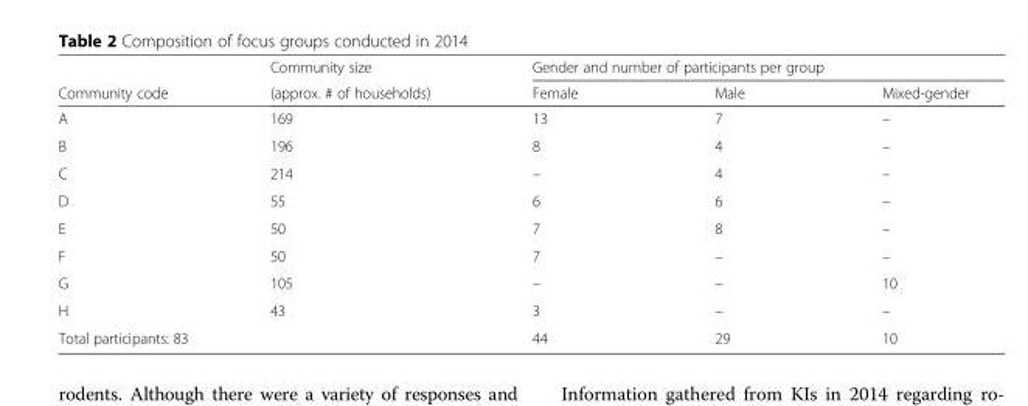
<table><thead><tr><td rowspan="2">Community code</td><td rowspan="2">Community size (approx. # of households)</td><td colspan="3">Gender and number of participants per group</td></tr><tr><td>Female</td><td>Male</td><td>Mixed-gender</td></tr></thead><tbody><tr><td>A</td><td>169</td><td>13</td><td>7</td><td>–</td></tr><tr><td>B</td><td>196</td><td>8</td><td>4</td><td>–</td></tr><tr><td>C</td><td>214</td><td>–</td><td>4</td><td>–</td></tr><tr><td>D</td><td>55</td><td>6</td><td>6</td><td>–</td></tr><tr><td>E</td><td>50</td><td>7</td><td>8</td><td>–</td></tr><tr><td>F</td><td>50</td><td>7</td><td>–</td><td>–</td></tr><tr><td>G</td><td>105</td><td>–</td><td>–</td><td>10</td></tr><tr><td>H</td><td>43</td><td>3</td><td>–</td><td>–</td></tr><tr><td colspan="2">Total participants: 83</td><td>44</td><td>29</td><td>10</td></tr></tbody></table>